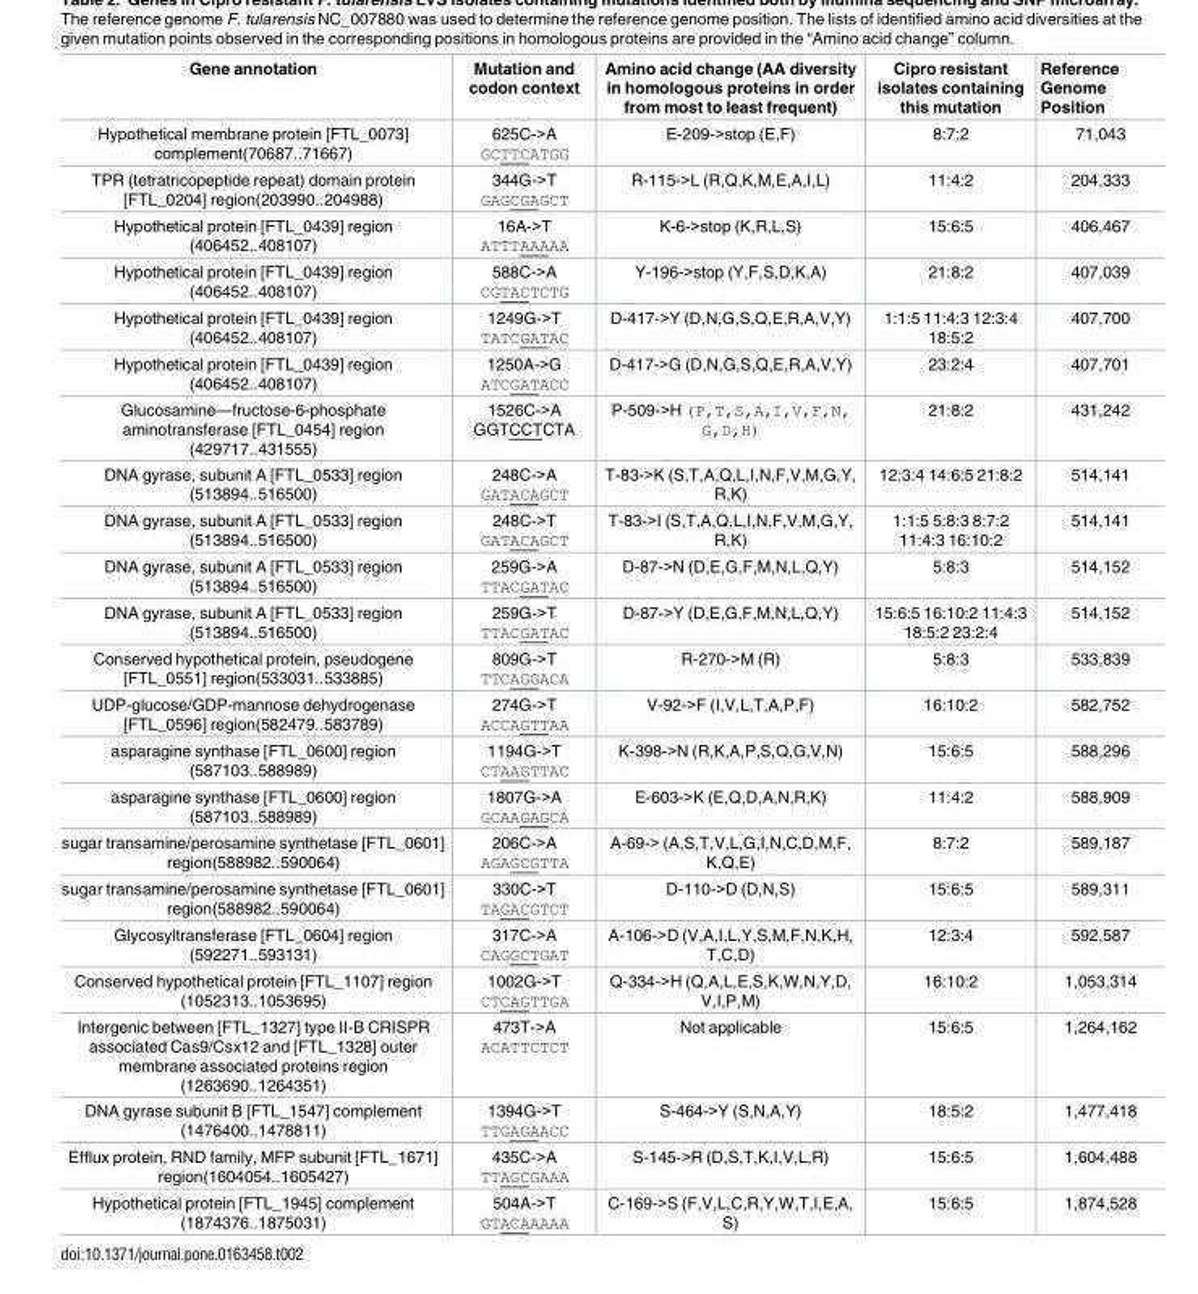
<table><thead><tr><td>Gene annotation</td><td>Mutation and codon context</td><td>Amino acid change (AA diversity in homologous proteins in order from most to least frequent)</td><td>Cipro resistant isolates containing this mutation</td><td>Reference Genome Position</td></tr></thead><tbody><tr><td>Hypothetical membrane protein [FTL_0073] complement(70687..71667)</td><td>625C-&gt;A GCTTCATGG</td><td>E-209-&gt;stop (E,F)</td><td>8:7:2</td><td>71,043</td></tr><tr><td>TPR (tetratricopeptide repeat) domain protein [FTL_0204] region(203990..204988)</td><td>344G-&gt;T GAGCGAGCT</td><td>R-115-&gt;L (R,Q,K,M,E,A,I,L)</td><td>11:4:2</td><td>204,333</td></tr><tr><td>Hypothetical protein [FTL_0439] region (406452..408107)</td><td>16A-&gt;T ATTTAAAAA</td><td>K-6-&gt;stop (K,R,L,S)</td><td>15:6:5</td><td>406,467</td></tr><tr><td>Hypothetical protein [FTL_0439] region (406452..408107)</td><td>588C-&gt;A CGTACTCTG</td><td>Y-196-&gt;stop (Y,F,S,D,K,A)</td><td>21:8:2</td><td>407,039</td></tr><tr><td>Hypothetical protein [FTL_0439] region (406452..408107)</td><td>1249G-&gt;T TATCGATAC</td><td>D-417-&gt;Y (D,N,G,S,Q,E,R,A,V,Y)</td><td>1:1:5 11:4:3 12:3:4 18:5:2</td><td>407,700</td></tr><tr><td>Hypothetical protein [FTL_0439] region (406452..408107)</td><td>1250A-&gt;G ATCGATACC</td><td>D-417-&gt;G (D,N,G,S,Q,E,R,A,V,Y)</td><td>23:2:4</td><td>407,701</td></tr><tr><td>Glucosamine—fructose-6-phosphate aminotransferase [FTL_0454] region (429717..431555)</td><td>1526C-&gt;A GGTCCTCTA</td><td>P-509-&gt;H (P,T,S,A,I,V,F,N, G,D,H)</td><td>21:8:2</td><td>431,242</td></tr><tr><td>DNA gyrase, subunit A [FTL_0533] region (513894..516500)</td><td>248C-&gt;A GATACAGCT</td><td>T-83-&gt;K (S,T,A,Q,L,I,N,F,V,M,G,Y, R,K)</td><td>12:3:4 14:6:5 21:8:2</td><td>514,141</td></tr><tr><td>DNA gyrase, subunit A [FTL_0533] region (513894..516500)</td><td>248C-&gt;T GATACAGCT</td><td>T-83-&gt;I (S,T,A,Q,L,I,N,F,V,M,G,Y, R,K)</td><td>1:1:5 5:8:3 8:7:2 11:4:3 16:10:2</td><td>514,141</td></tr><tr><td>DNA gyrase, subunit A [FTL_0533] region (513894..516500)</td><td>259G-&gt;A TTACGATAC</td><td>D-87-&gt;N (D,E,G,F,M,N,L,Q,Y)</td><td>5:8:3</td><td>514,152</td></tr><tr><td>DNA gyrase, subunit A [FTL_0533] region (513894..516500)</td><td>259G-&gt;T TTACGATAC</td><td>D-87-&gt;Y (D,E,G,F,M,N,L,Q,Y)</td><td>15:6:5 16:10:2 11:4:3 18:5:2 23:2:4</td><td>514,152</td></tr><tr><td>Conserved hypothetical protein, pseudogene [FTL_0551] region(533031..533885)</td><td>809G-&gt;T TTCAGGACA</td><td>R-270-&gt;M (R)</td><td>5:8:3</td><td>533,839</td></tr><tr><td>UDP-glucose/GDP-mannose dehydrogenase [FTL_0596] region(582479..583789)</td><td>274G-&gt;T ACCAGTTAA</td><td>V-92-&gt;F (I,V,L,T,A,P,F)</td><td>16:10:2</td><td>582,752</td></tr><tr><td>asparagine synthase [FTL_0600] region (587103..588989)</td><td>1194G-&gt;T CTAAGTTAC</td><td>K-398-&gt;N (R,K,A,P,S,Q,G,V,N)</td><td>15:6:5</td><td>588,296</td></tr><tr><td>asparagine synthase [FTL_0600] region (587103..588989)</td><td>1807G-&gt;A GCAAGAGCA</td><td>E-603-&gt;K (E,Q,D,A,N,R,K)</td><td>11:4:2</td><td>588,909</td></tr><tr><td>sugar transamine/perosamine synthetase [FTL_0601] region(588982..590064)</td><td>206C-&gt;A AGAGCGTTA</td><td>A-69-&gt; (A,S,T,V,L,G,I,N,C,D,M,F, K,Q,E)</td><td>8:7:2</td><td>589,187</td></tr><tr><td>sugar transamine/perosamine synthetase [FTL_0601] region(588982..590064)</td><td>330C-&gt;T TAGACGTCT</td><td>D-110-&gt;D (D,N,S)</td><td>15:6:5</td><td>589,311</td></tr><tr><td>Glycosyltransferase [FTL_0604] region (592271..593131)</td><td>317C-&gt;A CAGGCTGAT</td><td>A-106-&gt;D (V,A,I,L,Y,S,M,F,N,K,H, T,C,D)</td><td>12:3:4</td><td>592,587</td></tr><tr><td>Conserved hypothetical protein [FTL_1107] region (1052313..1053695)</td><td>1002G-&gt;T CTCAGTTGA</td><td>Q-334-&gt;H (Q,A,L,E,S,K,W,N,Y,D, V,I,P,M)</td><td>16:10:2</td><td>1,053,314</td></tr><tr><td>Intergenic between [FTL_1327] type II-B CRISPR associated Cas9/Csx12 and [FTL_1328] outer membrane associated proteins region (1263690..1264351)</td><td>473T-&gt;A ACATTCTCT</td><td>Not applicable</td><td>15:6:5</td><td>1,264,162</td></tr><tr><td>DNA gyrase subunit B [FTL_1547] complement (1476400..1478811)</td><td>1394G-&gt;T TTGAGAACC</td><td>S-464-&gt;Y (S,N,A,Y)</td><td>18:5:2</td><td>1,477,418</td></tr><tr><td>Efflux protein, RND family, MFP subunit [FTL_1671] region(1604054..1605427)</td><td>435C-&gt;A TTAGCGAAA</td><td>S-145-&gt;R (D,S,T,K,I,V,L,R)</td><td>15:6:5</td><td>1,604,488</td></tr><tr><td>Hypothetical protein [FTL_1945] complement (1874376..1875031)</td><td>504A-&gt;T GTACAAAAA</td><td>C-169-&gt;S (F,V,L,C,R,Y,W,T,I,E,A, S)</td><td>15:6:5</td><td>1,874,528</td></tr></tbody></table>